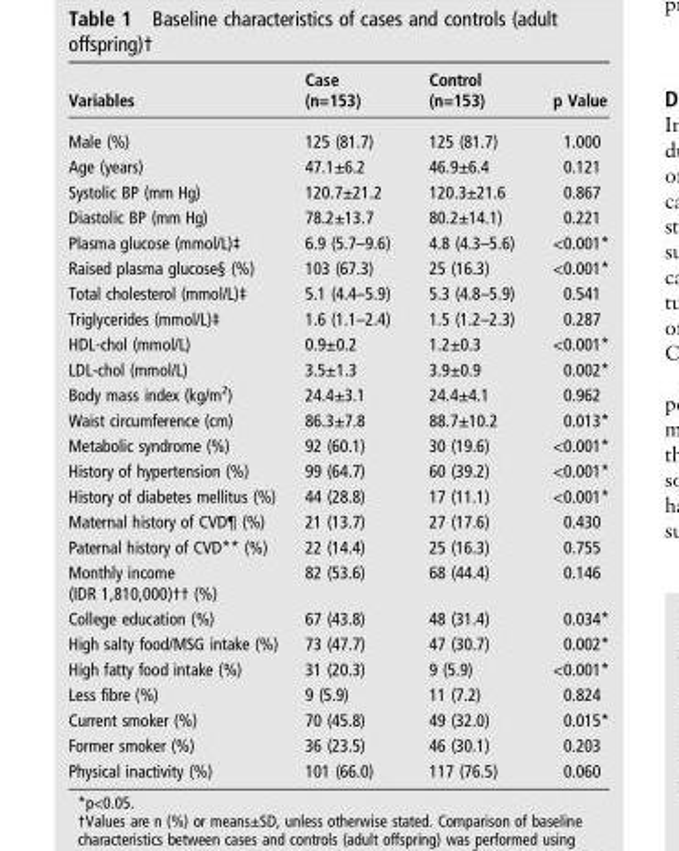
<table><thead><tr><td>Variables</td><td>Case (n=153)</td><td>Control (n=153)</td><td>p Value</td></tr></thead><tbody><tr><td>Male (%)</td><td>125 (81.7)</td><td>125 (81.7)</td><td>1.000</td></tr><tr><td>Age (years)</td><td>47.1±6.2</td><td>46.9±6.4</td><td>0.121</td></tr><tr><td>Systolic BP (mm Hg)</td><td>120.7±21.2</td><td>120.3±21.6</td><td>0.867</td></tr><tr><td>Diastolic BP (mm Hg)</td><td>78.2±13.7</td><td>80.2±14.1)</td><td>0.221</td></tr><tr><td>Plasma glucose (mmol/L)‡</td><td>6.9 (5.7–9.6)</td><td>4.8 (4.3–5.6)</td><td>&lt;0.001*</td></tr><tr><td>Raised plasma glucose§ (%)</td><td>103 (67.3)</td><td>25 (16.3)</td><td>&lt;0.001*</td></tr><tr><td>Total cholesterol (mmol/L)‡</td><td>5.1 (4.4–5.9)</td><td>5.3 (4.8–5.9)</td><td>0.541</td></tr><tr><td>Triglycerides (mmol/L)‡</td><td>1.6 (1.1–2.4)</td><td>1.5 (1.2–2.3)</td><td>0.287</td></tr><tr><td>HDL-chol (mmol/L)</td><td>0.9±0.2</td><td>1.2±0.3</td><td>&lt;0.001*</td></tr><tr><td>LDL-chol (mmol/L)</td><td>3.5±1.3</td><td>3.9±0.9</td><td>0.002*</td></tr><tr><td>Body mass index (kg/m<sup>2</sup>)</td><td>24.4±3.1</td><td>24.4±4.1</td><td>0.962</td></tr><tr><td>Waist circumference (cm)</td><td>86.3±7.8</td><td>88.7±10.2</td><td>0.013*</td></tr><tr><td>Metabolic syndrome (%)</td><td>92 (60.1)</td><td>30 (19.6)</td><td>&lt;0.001*</td></tr><tr><td>History of hypertension (%)</td><td>99 (64.7)</td><td>60 (39.2)</td><td>&lt;0.001*</td></tr><tr><td>History of diabetes mellitus (%)</td><td>44 (28.8)</td><td>17 (11.1)</td><td>&lt;0.001*</td></tr><tr><td>Maternal history of CVD¶ (%)</td><td>21 (13.7)</td><td>27 (17.6)</td><td>0.430</td></tr><tr><td>Paternal history of CVD** (%)</td><td>22 (14.4)</td><td>25 (16.3)</td><td>0.755</td></tr><tr><td>Monthly income (IDR 1,810,000)†† (%)</td><td>82 (53.6)</td><td>68 (44.4)</td><td>0.146</td></tr><tr><td>College education (%)</td><td>67 (43.8)</td><td>48 (31.4)</td><td>0.034*</td></tr><tr><td>High salty food/MSG intake (%)</td><td>73 (47.7)</td><td>47 (30.7)</td><td>0.002*</td></tr><tr><td>High fatty food intake (%)</td><td>31 (20.3)</td><td>9 (5.9)</td><td>&lt;0.001*</td></tr><tr><td>Less fibre (%)</td><td>9 (5.9)</td><td>11 (7.2)</td><td>0.824</td></tr><tr><td>Current smoker (%)</td><td>70 (45.8)</td><td>49 (32.0)</td><td>0.015*</td></tr><tr><td>Former smoker (%)</td><td>36 (23.5)</td><td>46 (30.1)</td><td>0.203</td></tr><tr><td>Physical inactivity (%)</td><td>101 (66.0)</td><td>117 (76.5)</td><td>0.060</td></tr></tbody></table>